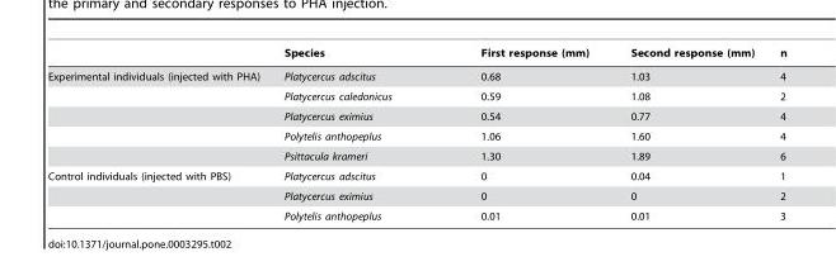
<table><thead><tr><td></td><td>Species</td><td>First response (mm)</td><td>Second response (mm)</td><td>n</td></tr></thead><tbody><tr><td rowspan="5">Experimental individuals (injected with PHA)</td><td>Platycercus adscitus</td><td>0.68</td><td>1.03</td><td>4</td></tr><tr><td>Platycercus caledonicus</td><td>0.59</td><td>1.08</td><td>2</td></tr><tr><td>Platycercus eximius</td><td>0.54</td><td>0.77</td><td>4</td></tr><tr><td>Polytelis anthopeplus</td><td>1.06</td><td>1.60</td><td>4</td></tr><tr><td>Psittacula krameri</td><td>1.30</td><td>1.89</td><td>6</td></tr><tr><td rowspan="3">Control individuals (injected with PBS)</td><td>Platycercus adscitus</td><td>0</td><td>0.04</td><td>1</td></tr><tr><td>Platycercus eximius</td><td>0</td><td>0</td><td>2</td></tr><tr><td>Polytelis anthopeplus</td><td>0.01</td><td>0.01</td><td>3</td></tr></tbody></table>